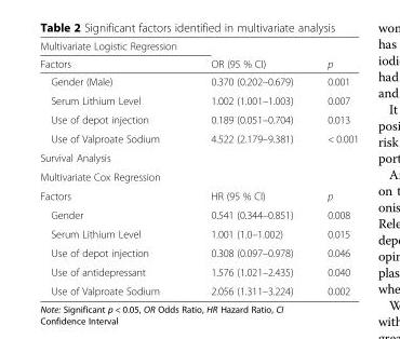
<table><thead><tr><td rowspan="2">Multivariate Logistic Regression Factors</td><td rowspan="2">OR (95 % CI)</td><td rowspan="2">p</td></tr><tr></tr></thead><tbody><tr><td>Gender (Male)</td><td>0.370 (0.202–0.679)</td><td>0.001</td></tr><tr><td>Serum Lithium Level</td><td>1.002 (1.001–1.003)</td><td>0.007</td></tr><tr><td>Use of depot injection</td><td>0.189 (0.051–0.704)</td><td>0.013</td></tr><tr><td>Use of Valproate Sodium</td><td>4.522 (2.179–9.381)</td><td>&lt; 0.001</td></tr><tr><td colspan="3">Survival Analysis</td></tr><tr><td colspan="3">Multivariate Cox Regression</td></tr><tr><td>Factors</td><td>HR (95 % CI)</td><td>p</td></tr><tr><td>Gender</td><td>0.541 (0.344–0.851)</td><td>0.008</td></tr><tr><td>Serum Lithium Level</td><td>1.001 (1.0–1.002)</td><td>0.015</td></tr><tr><td>Use of depot injection</td><td>0.308 (0.097–0.978)</td><td>0.046</td></tr><tr><td>Use of antidepressant</td><td>1.576 (1.021–2.435)</td><td>0.040</td></tr><tr><td>Use of Valproate Sodium</td><td>2.056 (1.311–3.224)</td><td>0.002</td></tr></tbody></table>